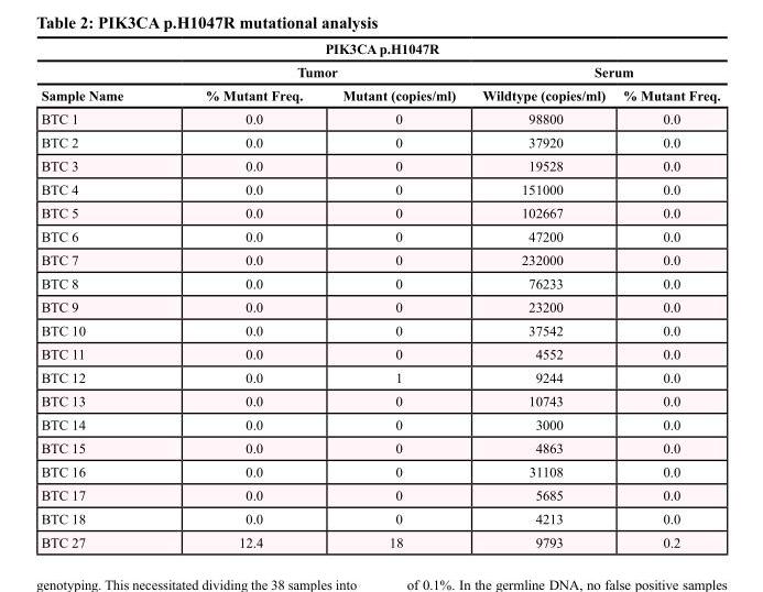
<table><thead><tr><td colspan="5">PIK3CA p.H1047R</td></tr><tr><td rowspan="2">Sample Name</td><td colspan="2">Tumor</td><td colspan="2">Serum</td></tr><tr><td>% Mutant Freq.</td><td>Mutant (copies/ml)</td><td>Wildtype (copies/ml)</td><td>% Mutant Freq.</td></tr></thead><tbody><tr><td>BTC 1</td><td>0.0</td><td>0</td><td>98800</td><td>0.0</td></tr><tr><td>BTC 2</td><td>0.0</td><td>0</td><td>37920</td><td>0.0</td></tr><tr><td>BTC 3</td><td>0.0</td><td>0</td><td>19528</td><td>0.0</td></tr><tr><td>BTC 4</td><td>0.0</td><td>0</td><td>151000</td><td>0.0</td></tr><tr><td>BTC 5</td><td>0.0</td><td>0</td><td>102667</td><td>0.0</td></tr><tr><td>BTC 6</td><td>0.0</td><td>0</td><td>47200</td><td>0.0</td></tr><tr><td>BTC 7</td><td>0.0</td><td>0</td><td>232000</td><td>0.0</td></tr><tr><td>BTC 8</td><td>0.0</td><td>0</td><td>76233</td><td>0.0</td></tr><tr><td>BTC 9</td><td>0.0</td><td>0</td><td>23200</td><td>0.0</td></tr><tr><td>BTC 10</td><td>0.0</td><td>0</td><td>37542</td><td>0.0</td></tr><tr><td>BTC 11</td><td>0.0</td><td>0</td><td>4552</td><td>0.0</td></tr><tr><td>BTC 12</td><td>0.0</td><td>1</td><td>9244</td><td>0.0</td></tr><tr><td>BTC 13</td><td>0.0</td><td>0</td><td>10743</td><td>0.0</td></tr><tr><td>BTC 14</td><td>0.0</td><td>0</td><td>3000</td><td>0.0</td></tr><tr><td>BTC 15</td><td>0.0</td><td>0</td><td>4863</td><td>0.0</td></tr><tr><td>BTC 16</td><td>0.0</td><td>0</td><td>31108</td><td>0.0</td></tr><tr><td>BTC 17</td><td>0.0</td><td>0</td><td>5685</td><td>0.0</td></tr><tr><td>BTC 18</td><td>0.0</td><td>0</td><td>4213</td><td>0.0</td></tr><tr><td>BTC 27</td><td>12.4</td><td>18</td><td>9793</td><td>0.2</td></tr></tbody></table>